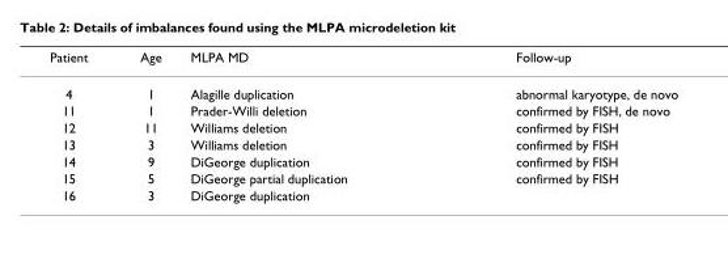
<table><thead><tr><td>Patient</td><td>Age</td><td>MLPA MD</td><td>Follow-up</td></tr></thead><tbody><tr><td>4</td><td>1</td><td>Alagille duplication</td><td>abnormal karyotype, de novo</td></tr><tr><td>11</td><td>1</td><td>Prader-Willi deletion</td><td>confirmed by FISH, de novo</td></tr><tr><td>12</td><td>11</td><td>Williams deletion</td><td>confirmed by FISH</td></tr><tr><td>13</td><td>3</td><td>Williams deletion</td><td>confirmed by FISH</td></tr><tr><td>14</td><td>9</td><td>DiGeorge duplication</td><td>confirmed by FISH</td></tr><tr><td>15</td><td>5</td><td>DiGeorge partial duplication</td><td>confirmed by FISH</td></tr><tr><td>16</td><td>3</td><td>DiGeorge duplication</td><td></td></tr></tbody></table>